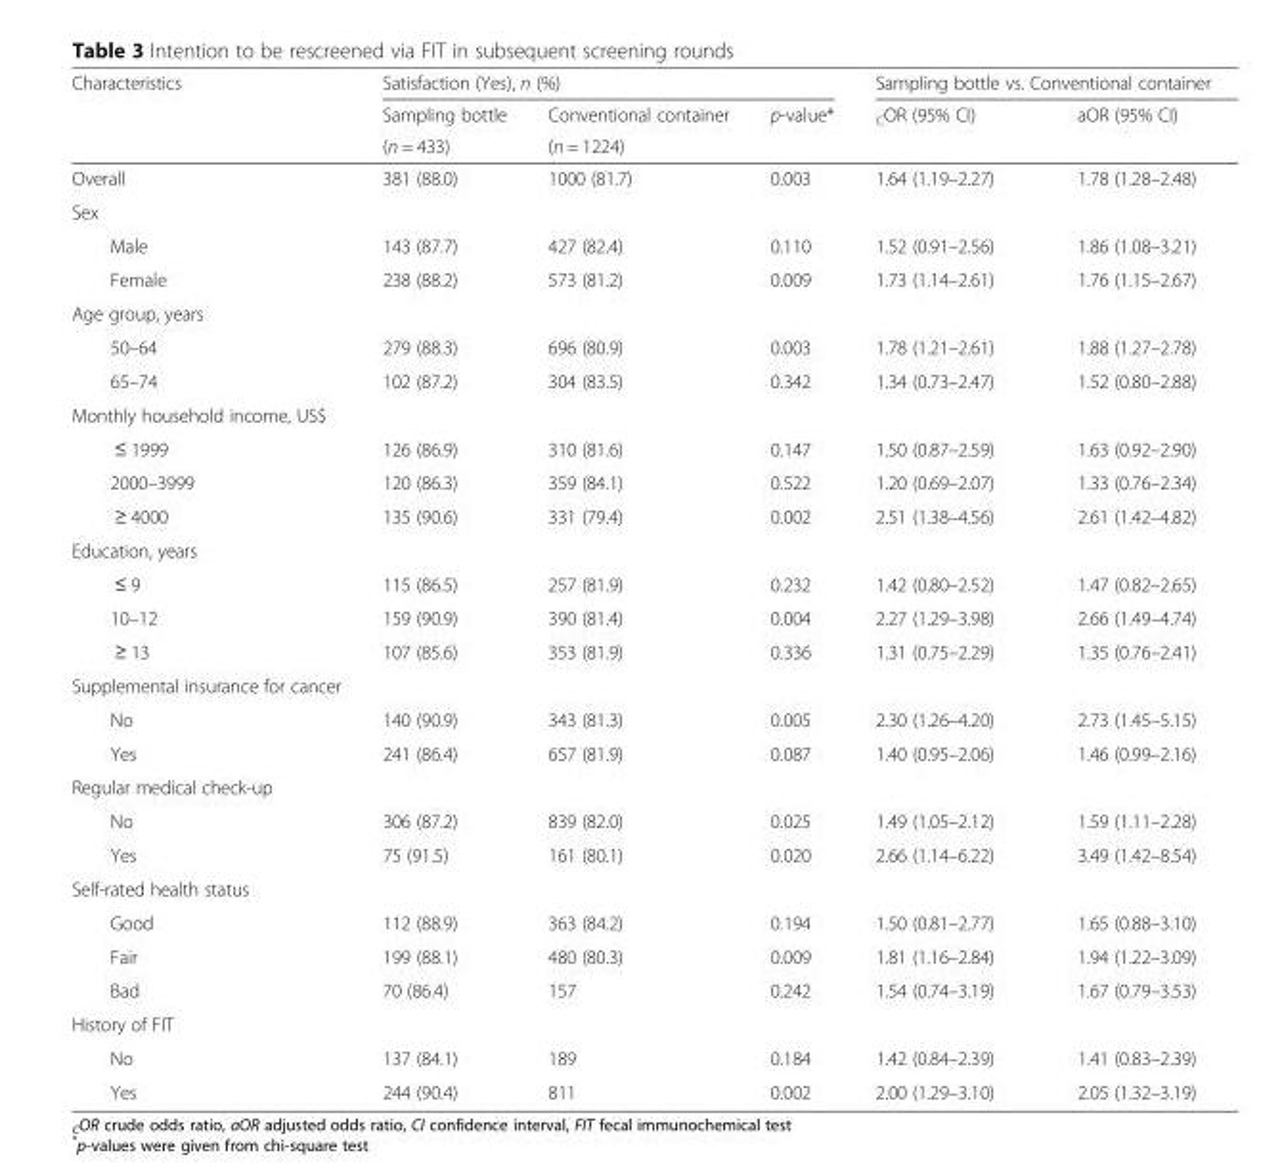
<table><thead><tr><td rowspan="3">Characteristics</td><td colspan="3">Satisfaction (Yes), n (%)</td><td colspan="2">Sampling bottle vs. Conventional container</td></tr><tr><td rowspan="2">Sampling bottle (n = 433)</td><td rowspan="2">Conventional container (n = 1224)</td><td rowspan="2">p-value*</td><td rowspan="2"><sub>C</sub>OR (95% CI)</td><td rowspan="2">aOR (95% CI)</td></tr><tr></tr></thead><tbody><tr><td>Overall</td><td>381 (88.0)</td><td>1000 (81.7)</td><td>0.003</td><td>1.64 (1.19–2.27)</td><td>1.78 (1.28–2.48)</td></tr><tr><td colspan="6">Sex</td></tr><tr><td>Male</td><td>143 (87.7)</td><td>427 (82.4)</td><td>0.110</td><td>1.52 (0.91–2.56)</td><td>1.86 (1.08–3.21)</td></tr><tr><td>Female</td><td>238 (88.2)</td><td>573 (81.2)</td><td>0.009</td><td>1.73 (1.14–2.61)</td><td>1.76 (1.15–2.67)</td></tr><tr><td colspan="6">Age group, years</td></tr><tr><td>50–64</td><td>279 (88.3)</td><td>696 (80.9)</td><td>0.003</td><td>1.78 (1.21–2.61)</td><td>1.88 (1.27–2.78)</td></tr><tr><td>65–74</td><td>102 (87.2)</td><td>304 (83.5)</td><td>0.342</td><td>1.34 (0.73–2.47)</td><td>1.52 (0.80–2.88)</td></tr><tr><td colspan="6">Monthly household income, US$</td></tr><tr><td>≤ 1999</td><td>126 (86.9)</td><td>310 (81.6)</td><td>0.147</td><td>1.50 (0.87–2.59)</td><td>1.63 (0.92–2.90)</td></tr><tr><td>2000–3999</td><td>120 (86.3)</td><td>359 (84.1)</td><td>0.522</td><td>1.20 (0.69–2.07)</td><td>1.33 (0.76–2.34)</td></tr><tr><td>≥ 4000</td><td>135 (90.6)</td><td>331 (79.4)</td><td>0.002</td><td>2.51 (1.38–4.56)</td><td>2.61 (1.42–4.82)</td></tr><tr><td colspan="6">Education, years</td></tr><tr><td>≤ 9</td><td>115 (86.5)</td><td>257 (81.9)</td><td>0.232</td><td>1.42 (0.80–2.52)</td><td>1.47 (0.82–2.65)</td></tr><tr><td>10–12</td><td>159 (90.9)</td><td>390 (81.4)</td><td>0.004</td><td>2.27 (1.29–3.98)</td><td>2.66 (1.49–4.74)</td></tr><tr><td>≥ 13</td><td>107 (85.6)</td><td>353 (81.9)</td><td>0.336</td><td>1.31 (0.75–2.29)</td><td>1.35 (0.76–2.41)</td></tr><tr><td colspan="6">Supplemental insurance for cancer</td></tr><tr><td>No</td><td>140 (90.9)</td><td>343 (81.3)</td><td>0.005</td><td>2.30 (1.26–4.20)</td><td>2.73 (1.45–5.15)</td></tr><tr><td>Yes</td><td>241 (86.4)</td><td>657 (81.9)</td><td>0.087</td><td>1.40 (0.95–2.06)</td><td>1.46 (0.99–2.16)</td></tr><tr><td colspan="6">Regular medical check-up</td></tr><tr><td>No</td><td>306 (87.2)</td><td>839 (82.0)</td><td>0.025</td><td>1.49 (1.05–2.12)</td><td>1.59 (1.11–2.28)</td></tr><tr><td>Yes</td><td>75 (91.5)</td><td>161 (80.1)</td><td>0.020</td><td>2.66 (1.14–6.22)</td><td>3.49 (1.42–8.54)</td></tr><tr><td colspan="6">Self-rated health status</td></tr><tr><td>Good</td><td>112 (88.9)</td><td>363 (84.2)</td><td>0.194</td><td>1.50 (0.81–2.77)</td><td>1.65 (0.88–3.10)</td></tr><tr><td>Fair</td><td>199 (88.1)</td><td>480 (80.3)</td><td>0.009</td><td>1.81 (1.16–2.84)</td><td>1.94 (1.22–3.09)</td></tr><tr><td>Bad</td><td>70 (86.4)</td><td>157</td><td>0.242</td><td>1.54 (0.74–3.19)</td><td>1.67 (0.79–3.53)</td></tr><tr><td colspan="6">History of FIT</td></tr><tr><td>No</td><td>137 (84.1)</td><td>189</td><td>0.184</td><td>1.42 (0.84–2.39)</td><td>1.41 (0.83–2.39)</td></tr><tr><td>Yes</td><td>244 (90.4)</td><td>811</td><td>0.002</td><td>2.00 (1.29–3.10)</td><td>2.05 (1.32–3.19)</td></tr></tbody></table>